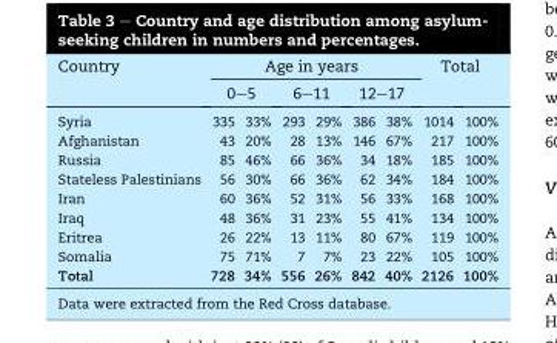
<table><thead><tr><td rowspan="3">Country Syria</td><td colspan="6">Age in years</td><td colspan="2">Total</td></tr><tr><td colspan="2">0–5</td><td colspan="2">6–11</td><td colspan="2">12–17</td><td rowspan="2">1014</td><td rowspan="2">100%</td></tr><tr><td>335</td><td>33%</td><td>293</td><td>29%</td><td>386</td><td>38%</td></tr></thead><tbody><tr><td>Afghanistan</td><td>43</td><td>20%</td><td>28</td><td>13%</td><td>146</td><td>67%</td><td>217</td><td>100%</td></tr><tr><td>Russia</td><td>85</td><td>46%</td><td>66</td><td>36%</td><td>34</td><td>18%</td><td>185</td><td>100%</td></tr><tr><td>Stateless Palestinians</td><td>56</td><td>30%</td><td>66</td><td>36%</td><td>62</td><td>34%</td><td>184</td><td>100%</td></tr><tr><td>Iran</td><td>60</td><td>36%</td><td>52</td><td>31%</td><td>56</td><td>33%</td><td>168</td><td>100%</td></tr><tr><td>Iraq</td><td>48</td><td>36%</td><td>31</td><td>23%</td><td>55</td><td>41%</td><td>134</td><td>100%</td></tr><tr><td>Eritrea</td><td>26</td><td>22%</td><td>13</td><td>11%</td><td>80</td><td>67%</td><td>119</td><td>100%</td></tr><tr><td>Somalia</td><td>75</td><td>71%</td><td>7</td><td>7%</td><td>23</td><td>22%</td><td>105</td><td>100%</td></tr><tr><td>Total</td><td>728</td><td>34%</td><td>556</td><td>26%</td><td>842</td><td>40%</td><td>2126</td><td>100%</td></tr></tbody></table>